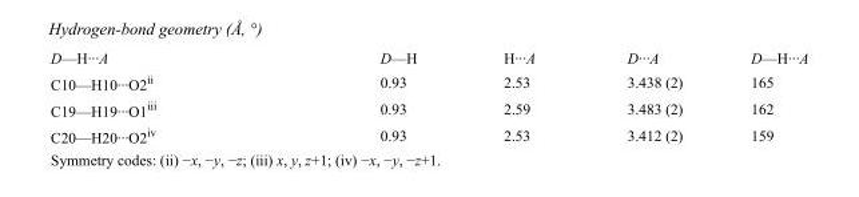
<table><tbody><tr><td>D—H···A</td><td>D—H</td><td>H···A</td><td>D···A</td><td>D—H···A</td></tr><tr><td>C10—H10···O2<sup>ii</sup></td><td>0.93</td><td>2.53</td><td>3.438 (2)</td><td>165</td></tr><tr><td>C19—H19···O1<sup>iii</sup></td><td>0.93</td><td>2.59</td><td>3.483 (2)</td><td>162</td></tr><tr><td>C20—H20···O2<sup>iv</sup></td><td>0.93</td><td>2.53</td><td>3.412 (2)</td><td>159</td></tr></tbody></table>